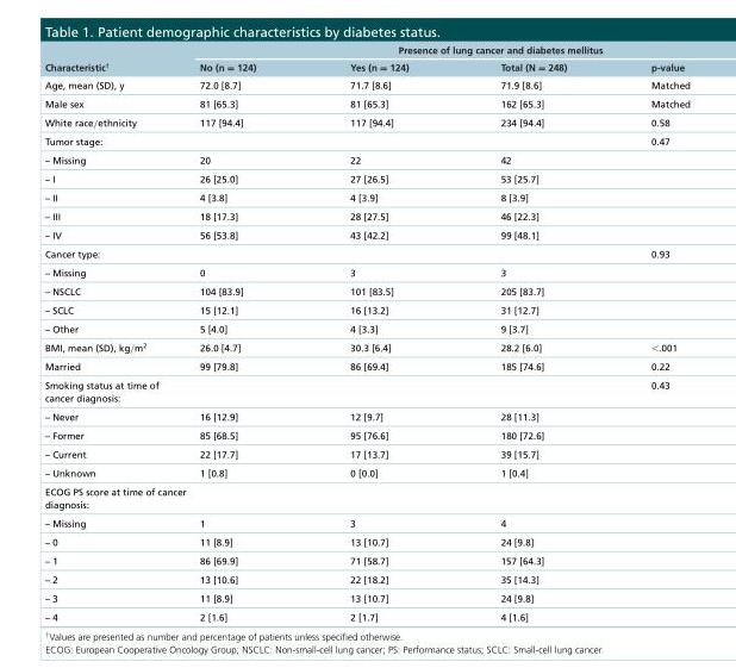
<table><thead><tr><td rowspan="2">Characteristic<sup>†</sup></td><td colspan="4">Presence of lung cancer and diabetes mellitus</td></tr><tr><td>No (n = 124)</td><td>Yes (n = 124)</td><td>Total (N = 248)</td><td>p-value</td></tr></thead><tbody><tr><td>Age, mean (SD), y</td><td>72.0 [8.7]</td><td>71.7 [8.6]</td><td>71.9 [8.6]</td><td>Matched</td></tr><tr><td>Male sex</td><td>81 [65.3]</td><td>81 [65.3]</td><td>162 [65.3]</td><td>Matched</td></tr><tr><td>White race/ethnicity</td><td>117 [94.4]</td><td>117 [94.4]</td><td>234 [94.4]</td><td>0.58</td></tr><tr><td>Tumor stage:</td><td></td><td></td><td></td><td>0.47</td></tr><tr><td>– Missing</td><td>20</td><td>22</td><td>42</td><td></td></tr><tr><td>– I</td><td>26 [25.0]</td><td>27 [26.5]</td><td>53 [25.7]</td><td></td></tr><tr><td>– II</td><td>4 [3.8]</td><td>4 [3.9]</td><td>8 [3.9]</td><td></td></tr><tr><td>– III</td><td>18 [17.3]</td><td>28 [27.5]</td><td>46 [22.3]</td><td></td></tr><tr><td>– IV</td><td>56 [53.8]</td><td>43 [42.2]</td><td>99 [48.1]</td><td></td></tr><tr><td>Cancer type:</td><td></td><td></td><td></td><td>0.93</td></tr><tr><td>– Missing</td><td>0</td><td>3</td><td>3</td><td></td></tr><tr><td>– NSCLC</td><td>104 [83.9]</td><td>101 [83.5]</td><td>205 [83.7]</td><td></td></tr><tr><td>– SCLC</td><td>15 [12.1]</td><td>16 [13.2]</td><td>31 [12.7]</td><td></td></tr><tr><td>– Other</td><td>5 [4.0]</td><td>4 [3.3]</td><td>9 [3.7]</td><td></td></tr><tr><td>BMI, mean (SD), kg/m<sup>2</sup></td><td>26.0 [4.7]</td><td>30.3 [6.4]</td><td>28.2 [6.0]</td><td>&lt;.001</td></tr><tr><td>Married</td><td>99 [79.8]</td><td>86 [69.4]</td><td>185 [74.6]</td><td>0.22</td></tr><tr><td>Smoking status at time of cancer diagnosis:</td><td></td><td></td><td></td><td>0.43</td></tr><tr><td>– Never</td><td>16 [12.9]</td><td>12 [9.7]</td><td>28 [11.3]</td><td></td></tr><tr><td>– Former</td><td>85 [68.5]</td><td>95 [76.6]</td><td>180 [72.6]</td><td></td></tr><tr><td>– Current</td><td>22 [17.7]</td><td>17 [13.7]</td><td>39 [15.7]</td><td></td></tr><tr><td>– Unknown</td><td>1 [0.8]</td><td>0 [0.0]</td><td>1 [0.4]</td><td></td></tr><tr><td colspan="5">ECOG PS score at time of cancer diagnosis:</td></tr><tr><td>– Missing</td><td>1</td><td>3</td><td>4</td><td></td></tr><tr><td>– 0</td><td>11 [8.9]</td><td>13 [10.7]</td><td>24 [9.8]</td><td></td></tr><tr><td>– 1</td><td>86 [69.9]</td><td>71 [58.7]</td><td>157 [64.3]</td><td></td></tr><tr><td>– 2</td><td>13 [10.6]</td><td>22 [18.2]</td><td>35 [14.3]</td><td></td></tr><tr><td>– 3</td><td>11 [8.9]</td><td>13 [10.7]</td><td>24 [9.8]</td><td></td></tr><tr><td>– 4</td><td>2 [1.6]</td><td>2 [1.7]</td><td>4 [1.6]</td><td></td></tr></tbody></table>